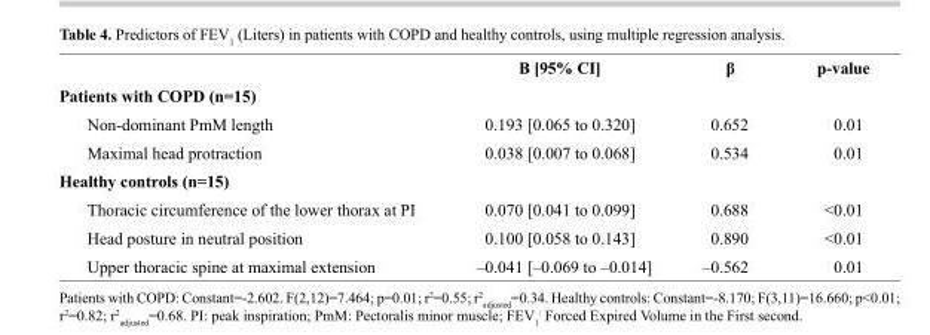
<table><thead><tr><td></td><td>B [95% CI]</td><td>β</td><td>p-value</td></tr></thead><tbody><tr><td colspan="4">Patients with COPD (n=15)</td></tr><tr><td>Non-dominant PmM length</td><td>0.193 [0.065 to 0.320]</td><td>0.652</td><td>0.01</td></tr><tr><td>Maximal head protraction</td><td>0.038 [0.007 to 0.068]</td><td>0.534</td><td>0.01</td></tr><tr><td colspan="4">Healthy controls (n=15)</td></tr><tr><td>Thoracic circumference of the lower thorax at PI</td><td>0.070 [0.041 to 0.099]</td><td>0.688</td><td>&lt;0.01</td></tr><tr><td>Head posture in neutral position</td><td>0.100 [0.058 to 0.143]</td><td>0.890</td><td>&lt;0.01</td></tr><tr><td>Upper thoracic spine at maximal extension</td><td>–0.041 [–0.069 to –0.014]</td><td>–0.562</td><td>0.01</td></tr></tbody></table>